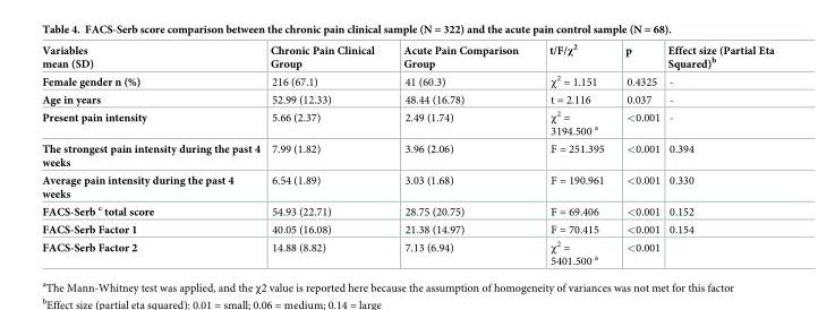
<table><thead><tr><td>Variables mean (SD)</td><td>Chronic Pain Clinical Group</td><td>Acute Pain Comparison Group</td><td>t/F/χ<sup>2</sup></td><td>p</td><td>Effect size (Partial Eta Squared)<sup>b</sup></td></tr></thead><tbody><tr><td>Female gender n (%)</td><td>216 (67.1)</td><td>41 (60.3)</td><td>χ<sup>2</sup> = 1.151</td><td>0.4325</td><td>-</td></tr><tr><td>Age in years</td><td>52.99 (12.33)</td><td>48.44 (16.78)</td><td>t = 2.116</td><td>0.037</td><td>-</td></tr><tr><td>Present pain intensity</td><td>5.66 (2.37)</td><td>2.49 (1.74)</td><td>χ<sup>2</sup> = 3194.500 <sup>a</sup></td><td>&lt;0.001</td><td>-</td></tr><tr><td>The strongest pain intensity during the past 4 weeks</td><td>7.99 (1.82)</td><td>3.96 (2.06)</td><td>F = 251.395</td><td>&lt;0.001</td><td>0.394</td></tr><tr><td>Average pain intensity during the past 4 weeks</td><td>6.54 (1.89)</td><td>3.03 (1.68)</td><td>F = 190.961</td><td>&lt;0.001</td><td>0.330</td></tr><tr><td>FACS-Serb <sup>c</sup> total score</td><td>54.93 (22.71)</td><td>28.75 (20.75)</td><td>F = 69.406</td><td>&lt;0.001</td><td>0.152</td></tr><tr><td>FACS-Serb Factor 1</td><td>40.05 (16.08)</td><td>21.38 (14.97)</td><td>F = 70.415</td><td>&lt;0.001</td><td>0.154</td></tr><tr><td>FACS-Serb Factor 2</td><td>14.88 (8.82)</td><td>7.13 (6.94)</td><td>χ<sup>2</sup> = 5401.500 <sup>a</sup></td><td>&lt;0.001</td><td></td></tr></tbody></table>